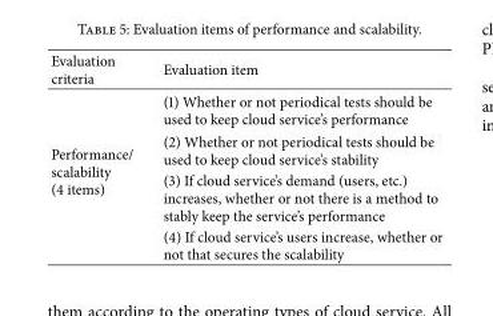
<table><thead><tr><td>Evaluation criteria</td><td>Evaluation item</td></tr></thead><tbody><tr><td rowspan="4">Performance/ scalability (4 items)</td><td>(1) Whether or not periodical tests should be used to keep cloud service’s performance</td></tr><tr><td>(2) Whether or not periodical tests should be used to keep cloud service’s stability</td></tr><tr><td>(3) If cloud service’s demand (users, etc.) increases, whether or not there is a method to stably keep the service’s performance</td></tr><tr><td>(4) If cloud service’s users increase, whether or not that secures the scalability</td></tr></tbody></table>